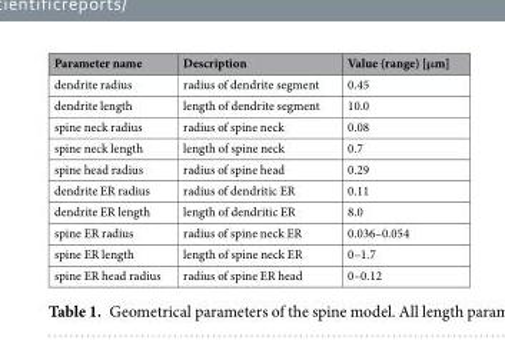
<table><thead><tr><td>Parameter name</td><td>Description</td><td>Value (range) [μm]</td></tr></thead><tbody><tr><td>dendrite radius</td><td>radius of dendrite segment</td><td>0.45</td></tr><tr><td>dendrite length</td><td>length of dendrite segment</td><td>10.0</td></tr><tr><td>spine neck radius</td><td>radius of spine neck</td><td>0.08</td></tr><tr><td>spine neck length</td><td>length of spine neck</td><td>0.7</td></tr><tr><td>spine head radius</td><td>radius of spine head</td><td>0.29</td></tr><tr><td>dendrite ER radius</td><td>radius of dendritic ER</td><td>0.11</td></tr><tr><td>dendrite ER length</td><td>length of dendritic ER</td><td>8.0</td></tr><tr><td>spine ER radius</td><td>radius of spine neck ER</td><td>0.036–0.054</td></tr><tr><td>spine ER length</td><td>length of spine neck ER</td><td>0–1.7</td></tr><tr><td>spine ER head radius</td><td>radius of spine ER head</td><td>0–0.12</td></tr></tbody></table>